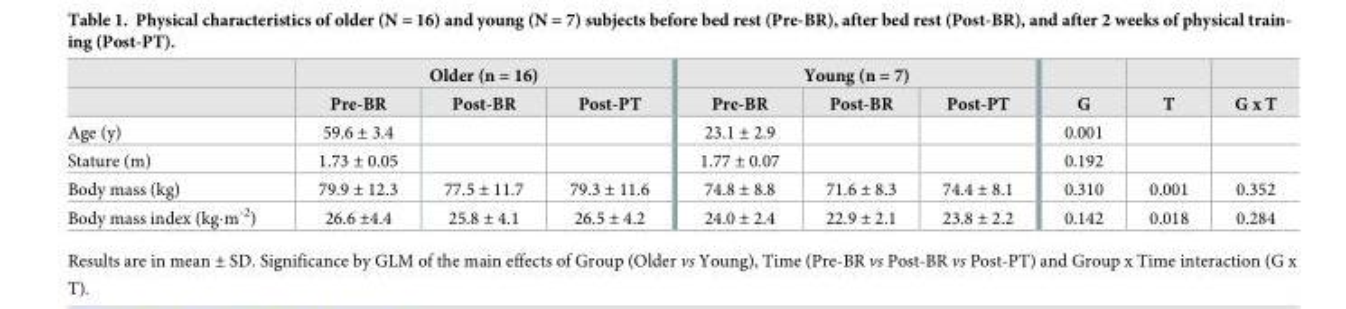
<table><thead><tr><td rowspan="2"></td><td colspan="3">Older (n = 16)</td><td colspan="3">Young (n = 7)</td><td rowspan="2">G</td><td rowspan="2">T</td><td rowspan="2">G x T</td></tr><tr><td>Pre-BR</td><td>Post-BR</td><td>Post-PT</td><td>Pre-BR</td><td>Post-BR</td><td>Post-PT</td></tr></thead><tbody><tr><td>Age (y)</td><td>59.6 ± 3.4</td><td></td><td></td><td>23.1 ± 2.9</td><td></td><td></td><td>0.001</td><td></td><td></td></tr><tr><td>Stature (m)</td><td>1.73 ± 0.05</td><td></td><td></td><td>1.77 ± 0.07</td><td></td><td></td><td>0.192</td><td></td><td></td></tr><tr><td>Body mass (kg)</td><td>79.9 ± 12.3</td><td>77.5 ± 11.7</td><td>79.3 ± 11.6</td><td>74.8 ± 8.8</td><td>71.6 ± 8.3</td><td>74.4 ± 8.1</td><td>0.310</td><td>0.001</td><td>0.352</td></tr><tr><td>Body mass index (kg·m<sup>-2</sup>)</td><td>26.6 ±4.4</td><td>25.8 ± 4.1</td><td>26.5 ± 4.2</td><td>24.0 ± 2.4</td><td>22.9 ± 2.1</td><td>23.8 ± 2.2</td><td>0.142</td><td>0.018</td><td>0.284</td></tr></tbody></table>